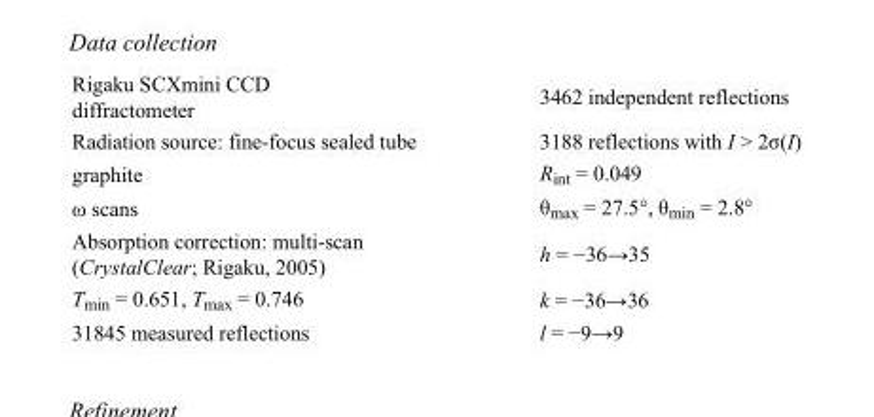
<table><tbody><tr><td>Rigaku SCXmini CCD diffractometer</td><td>3462 independent reflections</td></tr><tr><td>Radiation source: fine-focus sealed tube</td><td>3188 reflections with I &gt; 2σ(I)</td></tr><tr><td>graphite</td><td>R<sub>int</sub> = 0.049</td></tr><tr><td>ω scans</td><td>θ<sub>max</sub> = 27.5°, θ<sub>min</sub> = 2.8°</td></tr><tr><td>Absorption correction: multi-scan (CrystalClear; Rigaku, 2005)</td><td>h = −36→35</td></tr><tr><td>T<sub>min</sub> = 0.651, T<sub>max</sub> = 0.746</td><td>k = −36→36</td></tr><tr><td>31845 measured reflections</td><td>l = −9→9</td></tr></tbody></table>